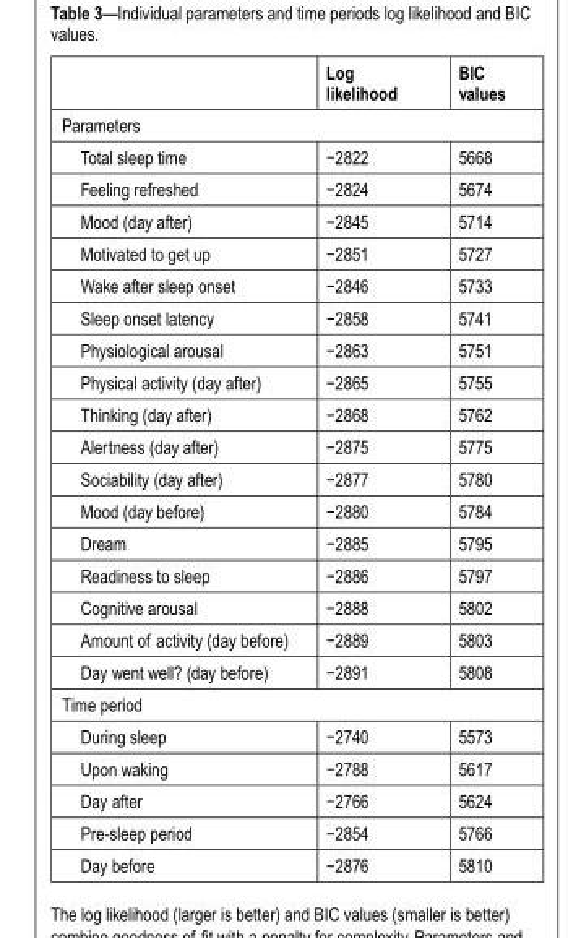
<table><thead><tr><td></td><td>Log likelihood</td><td>BIC values</td></tr></thead><tbody><tr><td colspan="3">Parameters</td></tr><tr><td>Total sleep time</td><td>−2822</td><td>5668</td></tr><tr><td>Feeling refreshed</td><td>−2824</td><td>5674</td></tr><tr><td>Mood (day after)</td><td>−2845</td><td>5714</td></tr><tr><td>Motivated to get up</td><td>−2851</td><td>5727</td></tr><tr><td>Wake after sleep onset</td><td>−2846</td><td>5733</td></tr><tr><td>Sleep onset latency</td><td>−2858</td><td>5741</td></tr><tr><td>Physiological arousal</td><td>−2863</td><td>5751</td></tr><tr><td>Physical activity (day after)</td><td>−2865</td><td>5755</td></tr><tr><td>Thinking (day after)</td><td>−2868</td><td>5762</td></tr><tr><td>Alertness (day after)</td><td>−2875</td><td>5775</td></tr><tr><td>Sociability (day after)</td><td>−2877</td><td>5780</td></tr><tr><td>Mood (day before)</td><td>−2880</td><td>5784</td></tr><tr><td>Dream</td><td>−2885</td><td>5795</td></tr><tr><td>Readiness to sleep</td><td>−2886</td><td>5797</td></tr><tr><td>Cognitive arousal</td><td>−2888</td><td>5802</td></tr><tr><td>Amount of activity (day before)</td><td>−2889</td><td>5803</td></tr><tr><td>Day went well? (day before)</td><td>−2891</td><td>5808</td></tr><tr><td colspan="3">Time period</td></tr><tr><td>During sleep</td><td>−2740</td><td>5573</td></tr><tr><td>Upon waking</td><td>−2788</td><td>5617</td></tr><tr><td>Day after</td><td>−2766</td><td>5624</td></tr><tr><td>Pre-sleep period</td><td>−2854</td><td>5766</td></tr><tr><td>Day before</td><td>−2876</td><td>5810</td></tr></tbody></table>